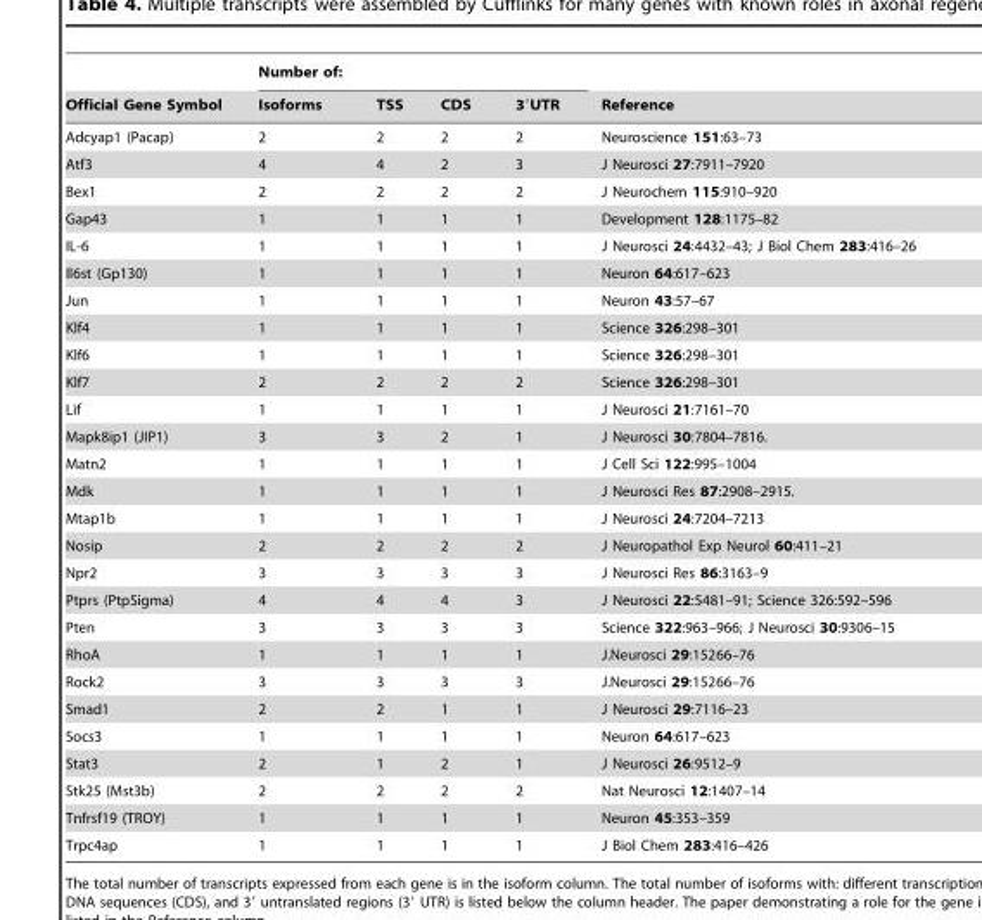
<table><thead><tr><td rowspan="2">Official Gene Symbol</td><td colspan="4">Number of:</td><td rowspan="2">Reference</td></tr><tr><td>Isoforms</td><td>TSS</td><td>CDS</td><td>3′UTR</td></tr></thead><tbody><tr><td>Adcyap1 (Pacap)</td><td>2</td><td>2</td><td>2</td><td>2</td><td>Neuroscience 151:63–73</td></tr><tr><td>Atf3</td><td>4</td><td>4</td><td>2</td><td>3</td><td>J Neurosci 27:7911–7920</td></tr><tr><td>Bex1</td><td>2</td><td>2</td><td>2</td><td>2</td><td>J Neurochem 115:910–920</td></tr><tr><td>Gap43</td><td>1</td><td>1</td><td>1</td><td>1</td><td>Development 128:1175–82</td></tr><tr><td>IL-6</td><td>1</td><td>1</td><td>1</td><td>1</td><td>J Neurosci 24:4432–43; J Biol Chem 283:416–26</td></tr><tr><td>Il6st (Gp130)</td><td>1</td><td>1</td><td>1</td><td>1</td><td>Neuron 64:617–623</td></tr><tr><td>Jun</td><td>1</td><td>1</td><td>1</td><td>1</td><td>Neuron 43:57–67</td></tr><tr><td>Klf4</td><td>1</td><td>1</td><td>1</td><td>1</td><td>Science 326:298–301</td></tr><tr><td>Klf6</td><td>1</td><td>1</td><td>1</td><td>1</td><td>Science 326:298–301</td></tr><tr><td>Klf7</td><td>2</td><td>2</td><td>2</td><td>2</td><td>Science 326:298–301</td></tr><tr><td>Lif</td><td>1</td><td>1</td><td>1</td><td>1</td><td>J Neurosci 21:7161–70</td></tr><tr><td>Mapk8ip1 (JIP1)</td><td>3</td><td>3</td><td>2</td><td>1</td><td>J Neurosci 30:7804–7816.</td></tr><tr><td>Matn2</td><td>1</td><td>1</td><td>1</td><td>1</td><td>J Cell Sci 122:995–1004</td></tr><tr><td>Mdk</td><td>1</td><td>1</td><td>1</td><td>1</td><td>J Neurosci Res 87:2908–2915.</td></tr><tr><td>Mtap1b</td><td>1</td><td>1</td><td>1</td><td>1</td><td>J Neurosci 24:7204–7213</td></tr><tr><td>Nosip</td><td>2</td><td>2</td><td>2</td><td>2</td><td>J Neuropathol Exp Neurol 60:411–21</td></tr><tr><td>Npr2</td><td>3</td><td>3</td><td>3</td><td>3</td><td>J Neurosci Res 86:3163–9</td></tr><tr><td>Ptprs (PtpSigma)</td><td>4</td><td>4</td><td>4</td><td>3</td><td>J Neurosci 22:5481–91; Science 326:592–596</td></tr><tr><td>Pten</td><td>3</td><td>3</td><td>3</td><td>3</td><td>Science 322:963–966; J Neurosci 30:9306–15</td></tr><tr><td>RhoA</td><td>1</td><td>1</td><td>1</td><td>1</td><td>J.Neurosci 29:15266–76</td></tr><tr><td>Rock2</td><td>3</td><td>3</td><td>3</td><td>3</td><td>J.Neurosci 29:15266–76</td></tr><tr><td>Smad1</td><td>2</td><td>2</td><td>1</td><td>1</td><td>J Neurosci 29:7116–23</td></tr><tr><td>Socs3</td><td>1</td><td>1</td><td>1</td><td>1</td><td>Neuron 64:617–623</td></tr><tr><td>Stat3</td><td>2</td><td>1</td><td>2</td><td>1</td><td>J Neurosci 26:9512–9</td></tr><tr><td>Stk25 (Mst3b)</td><td>2</td><td>2</td><td>2</td><td>2</td><td>Nat Neurosci 12:1407–14</td></tr><tr><td>Tnfrsf19 (TROY)</td><td>1</td><td>1</td><td>1</td><td>1</td><td>Neuron 45:353–359</td></tr><tr><td>Trpc4ap</td><td>1</td><td>1</td><td>1</td><td>1</td><td>J Biol Chem 283:416–426</td></tr></tbody></table>